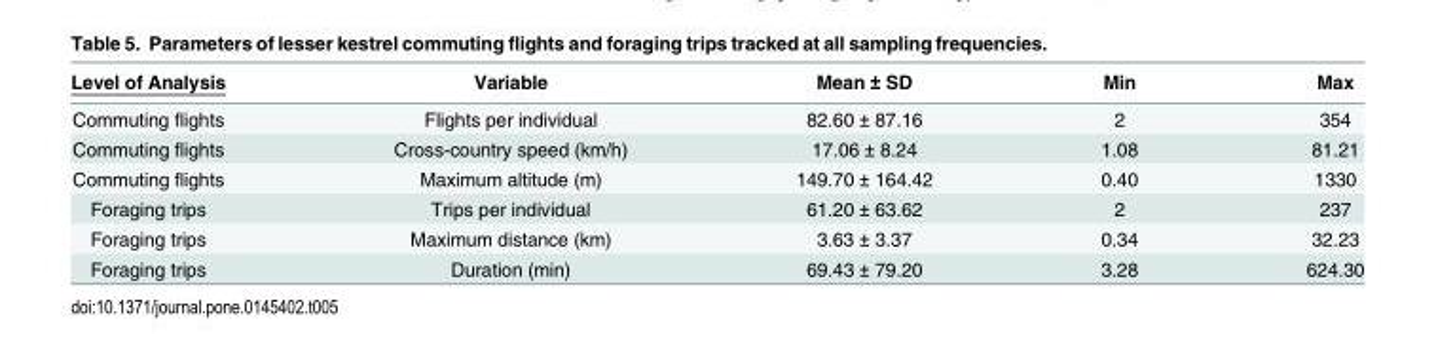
<table><thead><tr><td>Level of Analysis</td><td>Variable</td><td>Mean ± SD</td><td>Min</td><td>Max</td></tr></thead><tbody><tr><td>Commuting flights</td><td>Flights per individual</td><td>82.60 ± 87.16</td><td>2</td><td>354</td></tr><tr><td>Commuting flights</td><td>Cross-country speed (km/h)</td><td>17.06 ± 8.24</td><td>1.08</td><td>81.21</td></tr><tr><td>Commuting flights</td><td>Maximum altitude (m)</td><td>149.70 ± 164.42</td><td>0.40</td><td>1330</td></tr><tr><td>Foraging trips</td><td>Trips per individual</td><td>61.20 ± 63.62</td><td>2</td><td>237</td></tr><tr><td>Foraging trips</td><td>Maximum distance (km)</td><td>3.63 ± 3.37</td><td>0.34</td><td>32.23</td></tr><tr><td>Foraging trips</td><td>Duration (min)</td><td>69.43 ± 79.20</td><td>3.28</td><td>624.30</td></tr></tbody></table>